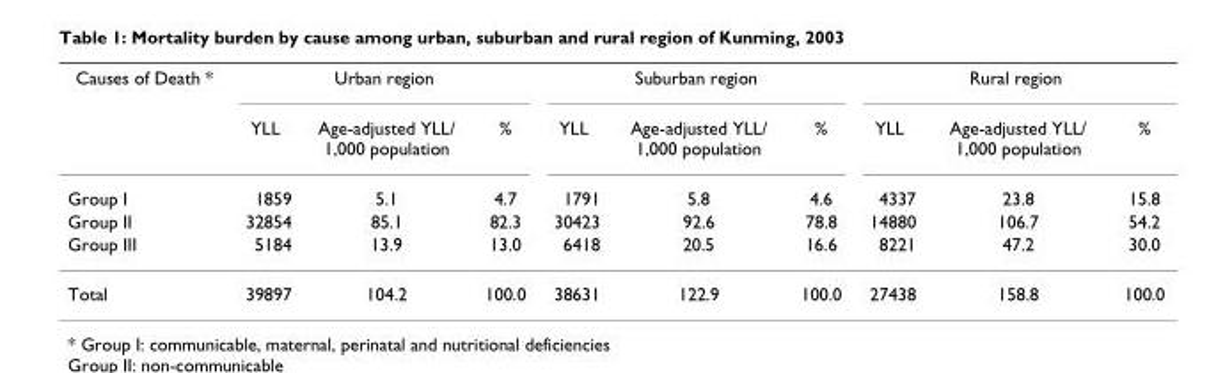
<table><thead><tr><td rowspan="5">Causes of Death * Group I Group II Group III</td><td colspan="3">Urban region</td><td colspan="3">Suburban region</td><td colspan="3">Rural region</td></tr><tr><td rowspan="4">YLL 1859 32854 5184</td><td rowspan="4">Age-adjusted YLL/ 1,000 population 5.1 85.1 13.9</td><td rowspan="4">% 4.7 82.3 13.0</td><td rowspan="4">YLL 1791 30423 6418</td><td rowspan="4">Age-adjusted YLL/ 1,000 population 5.8 92.6 20.5</td><td rowspan="4">% 4.6 78.8 16.6</td><td rowspan="4">YLL 4337 14880 8221</td><td rowspan="4">Age-adjusted YLL/ 1,000 population 23.8 106.7 47.2</td><td rowspan="4">% 15.8 54.2 30.0</td></tr><tr></tr><tr></tr><tr></tr></thead><tbody><tr><td>Total</td><td>39897</td><td>104.2</td><td>100.0</td><td>38631</td><td>122.9</td><td>100.0</td><td>27438</td><td>158.8</td><td>100.0</td></tr></tbody></table>